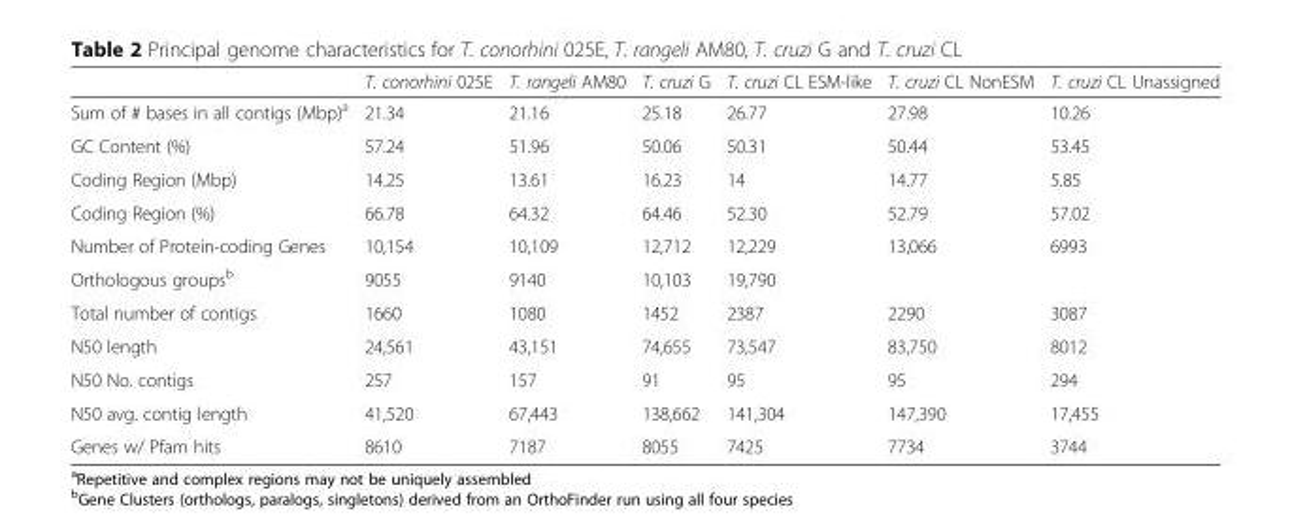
<table><thead><tr><td></td><td>T. conorhini 025E</td><td>T. rangeli AM80</td><td>T. cruzi G</td><td>T. cruzi CL ESM-like</td><td>T. cruzi CL NonESM</td><td>T. cruzi CL Unassigned</td></tr></thead><tbody><tr><td>Sum of # bases in all contigs (Mbp)<sup>a</sup></td><td>21.34</td><td>21.16</td><td>25.18</td><td>26.77</td><td>27.98</td><td>10.26</td></tr><tr><td>GC Content (%)</td><td>57.24</td><td>51.96</td><td>50.06</td><td>50.31</td><td>50.44</td><td>53.45</td></tr><tr><td>Coding Region (Mbp)</td><td>14.25</td><td>13.61</td><td>16.23</td><td>14</td><td>14.77</td><td>5.85</td></tr><tr><td>Coding Region (%)</td><td>66.78</td><td>64.32</td><td>64.46</td><td>52.30</td><td>52.79</td><td>57.02</td></tr><tr><td>Number of Protein-coding Genes</td><td>10,154</td><td>10,109</td><td>12,712</td><td>12,229</td><td>13,066</td><td>6993</td></tr><tr><td>Orthologous groups<sup>b</sup></td><td>9055</td><td>9140</td><td>10,103</td><td colspan="3">19,790</td></tr><tr><td>Total number of contigs</td><td>1660</td><td>1080</td><td>1452</td><td>2387</td><td>2290</td><td>3087</td></tr><tr><td>N50 length</td><td>24,561</td><td>43,151</td><td>74,655</td><td>73,547</td><td>83,750</td><td>8012</td></tr><tr><td>N50 No. contigs</td><td>257</td><td>157</td><td>91</td><td>95</td><td>95</td><td>294</td></tr><tr><td>N50 avg. contig length</td><td>41,520</td><td>67,443</td><td>138,662</td><td>141,304</td><td>147,390</td><td>17,455</td></tr><tr><td>Genes w/ Pfam hits</td><td>8610</td><td>7187</td><td>8055</td><td>7425</td><td>7734</td><td>3744</td></tr></tbody></table>